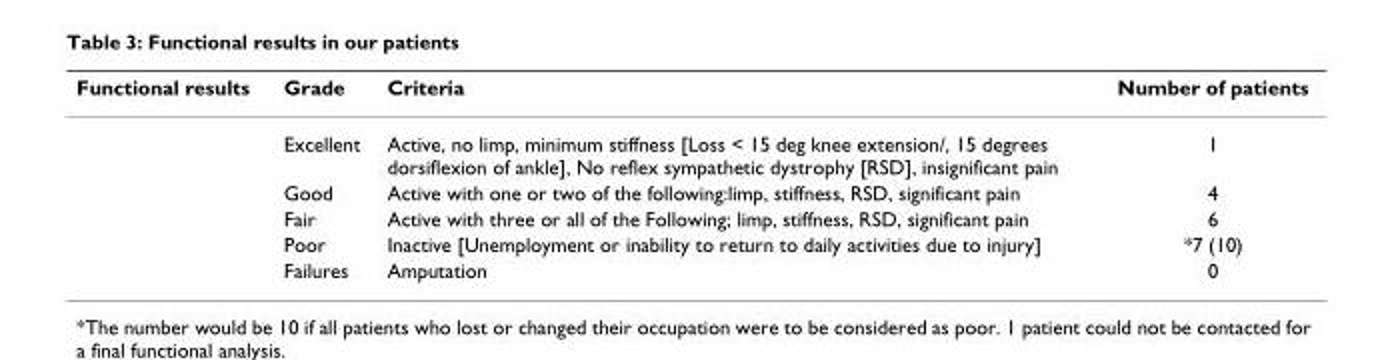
<table><thead><tr><td>Functional results</td><td>Grade</td><td>Criteria</td><td>Number of patients</td></tr></thead><tbody><tr><td></td><td>Excellent</td><td>Active, no limp, minimum stiffness [Loss &lt; 15 deg knee extension/, 15 degrees dorsiflexion of ankle], No reflex sympathetic dystrophy [RSD], insignificant pain</td><td>1</td></tr><tr><td></td><td>Good</td><td>Active with one or two of the following:limp, stiffness, RSD, significant pain</td><td>4</td></tr><tr><td></td><td>Fair</td><td>Active with three or all of the Following; limp, stiffness, RSD, significant pain</td><td>6</td></tr><tr><td></td><td>Poor</td><td>Inactive [Unemployment or inability to return to daily activities due to injury]</td><td>*7 (10)</td></tr><tr><td></td><td>Failures</td><td>Amputation</td><td>0</td></tr></tbody></table>